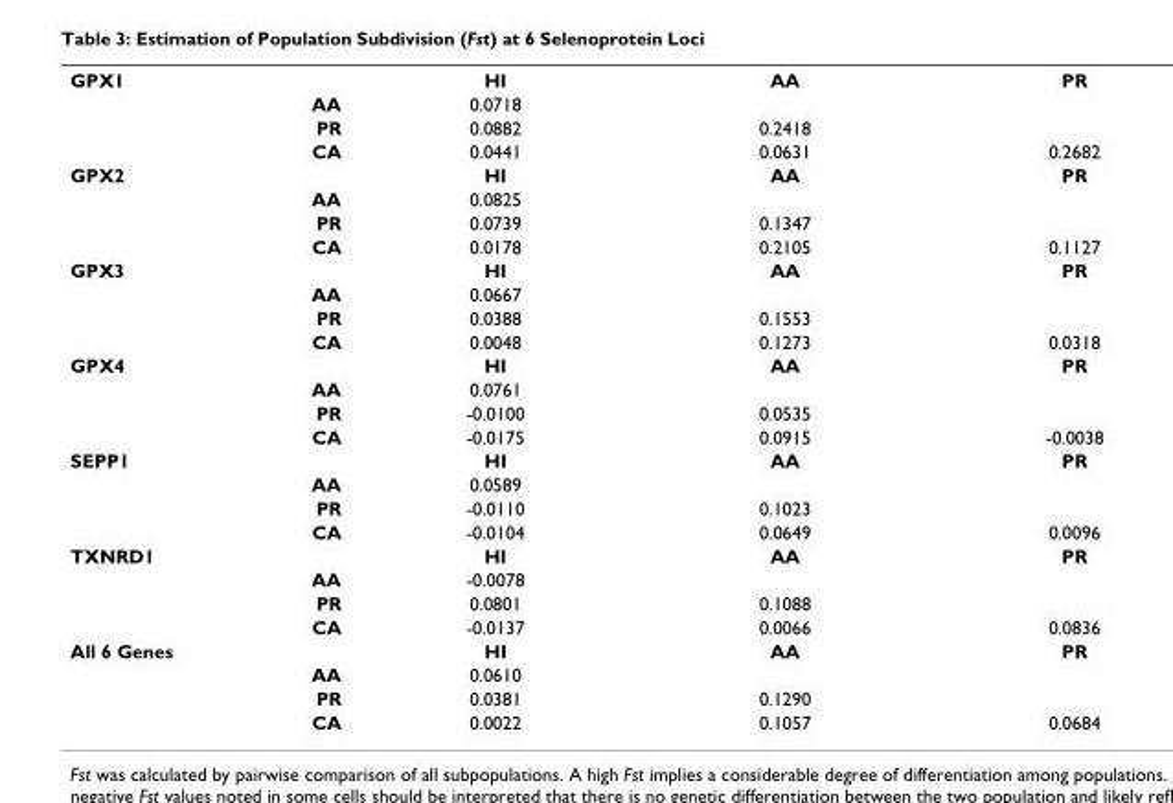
<table><tbody><tr><td>GPX1</td><td>HI</td><td>AA</td><td>PR</td></tr><tr><td>AA</td><td>0.0718</td><td></td><td></td></tr><tr><td>PR</td><td>0.0882</td><td>0.2418</td><td></td></tr><tr><td>CA</td><td>0.0441</td><td>0.0631</td><td>0.2682</td></tr><tr><td>GPX2</td><td>HI</td><td>AA</td><td>PR</td></tr><tr><td>AA</td><td>0.0825</td><td></td><td></td></tr><tr><td>PR</td><td>0.0739</td><td>0.1347</td><td></td></tr><tr><td>CA</td><td>0.0178</td><td>0.2105</td><td>0.1127</td></tr><tr><td>GPX3</td><td>HI</td><td>AA</td><td>PR</td></tr><tr><td>AA</td><td>0.0667</td><td></td><td></td></tr><tr><td>PR</td><td>0.0388</td><td>0.1553</td><td></td></tr><tr><td>CA</td><td>0.0048</td><td>0.1273</td><td>0.0318</td></tr><tr><td>GPX4</td><td>HI</td><td>AA</td><td>PR</td></tr><tr><td>AA</td><td>0.0761</td><td></td><td></td></tr><tr><td>PR</td><td>-0.0100</td><td>0.0535</td><td></td></tr><tr><td>CA</td><td>-0.0175</td><td>0.0915</td><td>-0.0038</td></tr><tr><td>SEPP1</td><td>HI</td><td>AA</td><td>PR</td></tr><tr><td>AA</td><td>0.0589</td><td></td><td></td></tr><tr><td>PR</td><td>-0.0110</td><td>0.1023</td><td></td></tr><tr><td>CA</td><td>-0.0104</td><td>0.0649</td><td>0.0096</td></tr><tr><td>TXNRD1</td><td>HI</td><td>AA</td><td>PR</td></tr><tr><td>AA</td><td>-0.0078</td><td></td><td></td></tr><tr><td>PR</td><td>0.0801</td><td>0.1088</td><td></td></tr><tr><td>CA</td><td>-0.0137</td><td>0.0066</td><td>0.0836</td></tr><tr><td>All 6 Genes</td><td>HI</td><td>AA</td><td>PR</td></tr><tr><td>AA</td><td>0.0610</td><td></td><td></td></tr><tr><td>PR</td><td>0.0381</td><td>0.1290</td><td></td></tr><tr><td>CA</td><td>0.0022</td><td>0.1057</td><td>0.0684</td></tr></tbody></table>